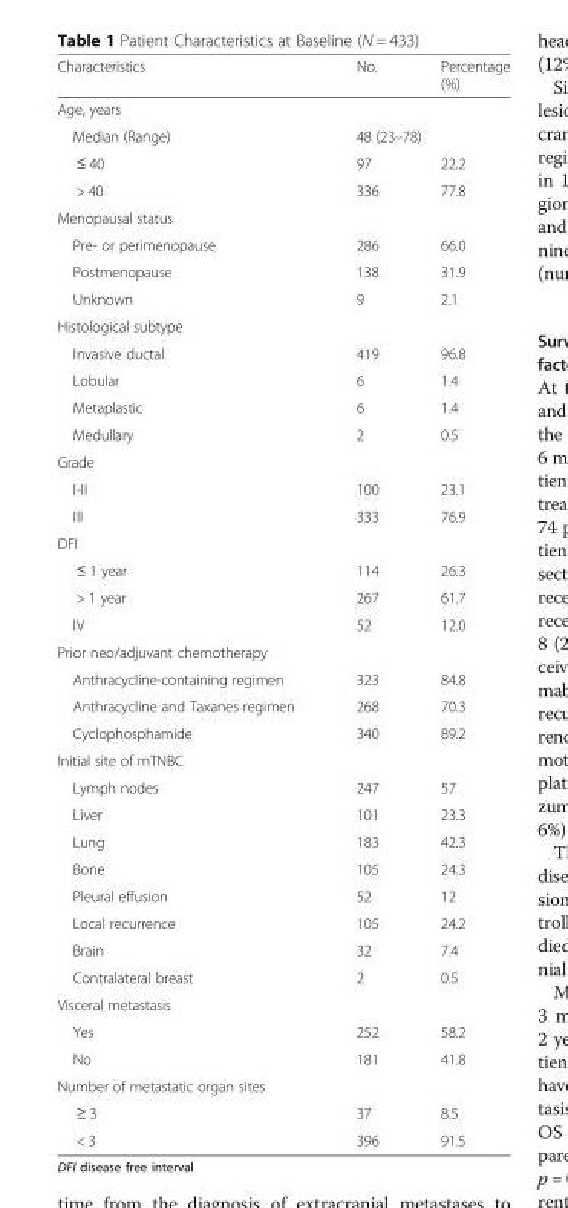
<table><thead><tr><td>Characteristics</td><td>No.</td><td>Percentage (%)</td></tr></thead><tbody><tr><td colspan="3">Age, years</td></tr><tr><td>Median (Range)</td><td colspan="2">48 (23–78)</td></tr><tr><td>≤ 40</td><td>97</td><td>22.2</td></tr><tr><td>&gt; 40</td><td>336</td><td>77.8</td></tr><tr><td colspan="3">Menopausal status</td></tr><tr><td>Pre- or perimenopause</td><td>286</td><td>66.0</td></tr><tr><td>Postmenopause</td><td>138</td><td>31.9</td></tr><tr><td>Unknown</td><td>9</td><td>2.1</td></tr><tr><td colspan="3">Histological subtype</td></tr><tr><td>Invasive ductal</td><td>419</td><td>96.8</td></tr><tr><td>Lobular</td><td>6</td><td>1.4</td></tr><tr><td>Metaplastic</td><td>6</td><td>1.4</td></tr><tr><td>Medullary</td><td>2</td><td>0.5</td></tr><tr><td colspan="3">Grade</td></tr><tr><td>I-II</td><td>100</td><td>23.1</td></tr><tr><td>III</td><td>333</td><td>76.9</td></tr><tr><td colspan="3">DFI</td></tr><tr><td>≤ 1 year</td><td>114</td><td>26.3</td></tr><tr><td>&gt; 1 year</td><td>267</td><td>61.7</td></tr><tr><td>IV</td><td>52</td><td>12.0</td></tr><tr><td colspan="3">Prior neo/adjuvant chemotherapy</td></tr><tr><td>Anthracycline-containing regimen</td><td>323</td><td>84.8</td></tr><tr><td>Anthracycline and Taxanes regimen</td><td>268</td><td>70.3</td></tr><tr><td>Cyclophosphamide</td><td>340</td><td>89.2</td></tr><tr><td colspan="3">Initial site of mTNBC</td></tr><tr><td>Lymph nodes</td><td>247</td><td>57</td></tr><tr><td>Liver</td><td>101</td><td>23.3</td></tr><tr><td>Lung</td><td>183</td><td>42.3</td></tr><tr><td>Bone</td><td>105</td><td>24.3</td></tr><tr><td>Pleural effusion</td><td>52</td><td>12</td></tr><tr><td>Local recurrence</td><td>105</td><td>24.2</td></tr><tr><td>Brain</td><td>32</td><td>7.4</td></tr><tr><td>Contralateral breast</td><td>2</td><td>0.5</td></tr><tr><td colspan="3">Visceral metastasis</td></tr><tr><td>Yes</td><td>252</td><td>58.2</td></tr><tr><td>No</td><td>181</td><td>41.8</td></tr><tr><td colspan="3">Number of metastatic organ sites</td></tr><tr><td>≥ 3</td><td>37</td><td>8.5</td></tr><tr><td>&lt; 3</td><td>396</td><td>91.5</td></tr></tbody></table>